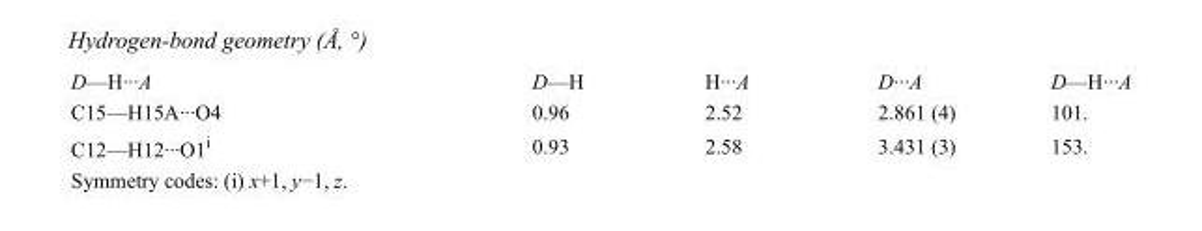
<table><tbody><tr><td>D—H···A</td><td>D—H</td><td>H···A</td><td>D···A</td><td>D—H···A</td></tr><tr><td>C15—H15A···O4</td><td>0.96</td><td>2.52</td><td>2.861 (4)</td><td>101.</td></tr><tr><td>C12—H12···O1<sup>i</sup></td><td>0.93</td><td>2.58</td><td>3.431 (3)</td><td>153.</td></tr></tbody></table>